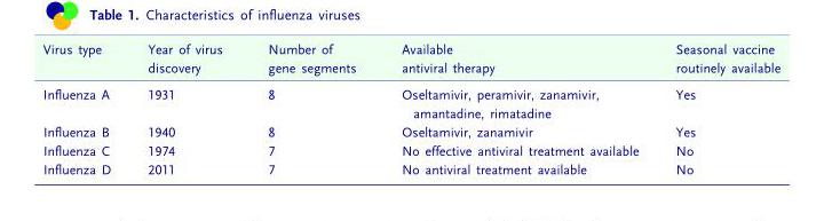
<table><thead><tr><td>Virus type</td><td>Year of virus discovery</td><td>Number of gene segments</td><td>Available antiviral therapy</td><td>Seasonal vaccine routinely available</td></tr></thead><tbody><tr><td>Influenza A</td><td>1931</td><td>8</td><td>Oseltamivir, peramivir, zanamivir, amantadine, rimatadine</td><td>Yes</td></tr><tr><td>Influenza B</td><td>1940</td><td>8</td><td>Oseltamivir, zanamivir</td><td>Yes</td></tr><tr><td>Influenza C</td><td>1974</td><td>7</td><td>No effective antiviral treatment available</td><td>No</td></tr><tr><td>Influenza D</td><td>2011</td><td>7</td><td>No antiviral treatment available</td><td>No</td></tr></tbody></table>